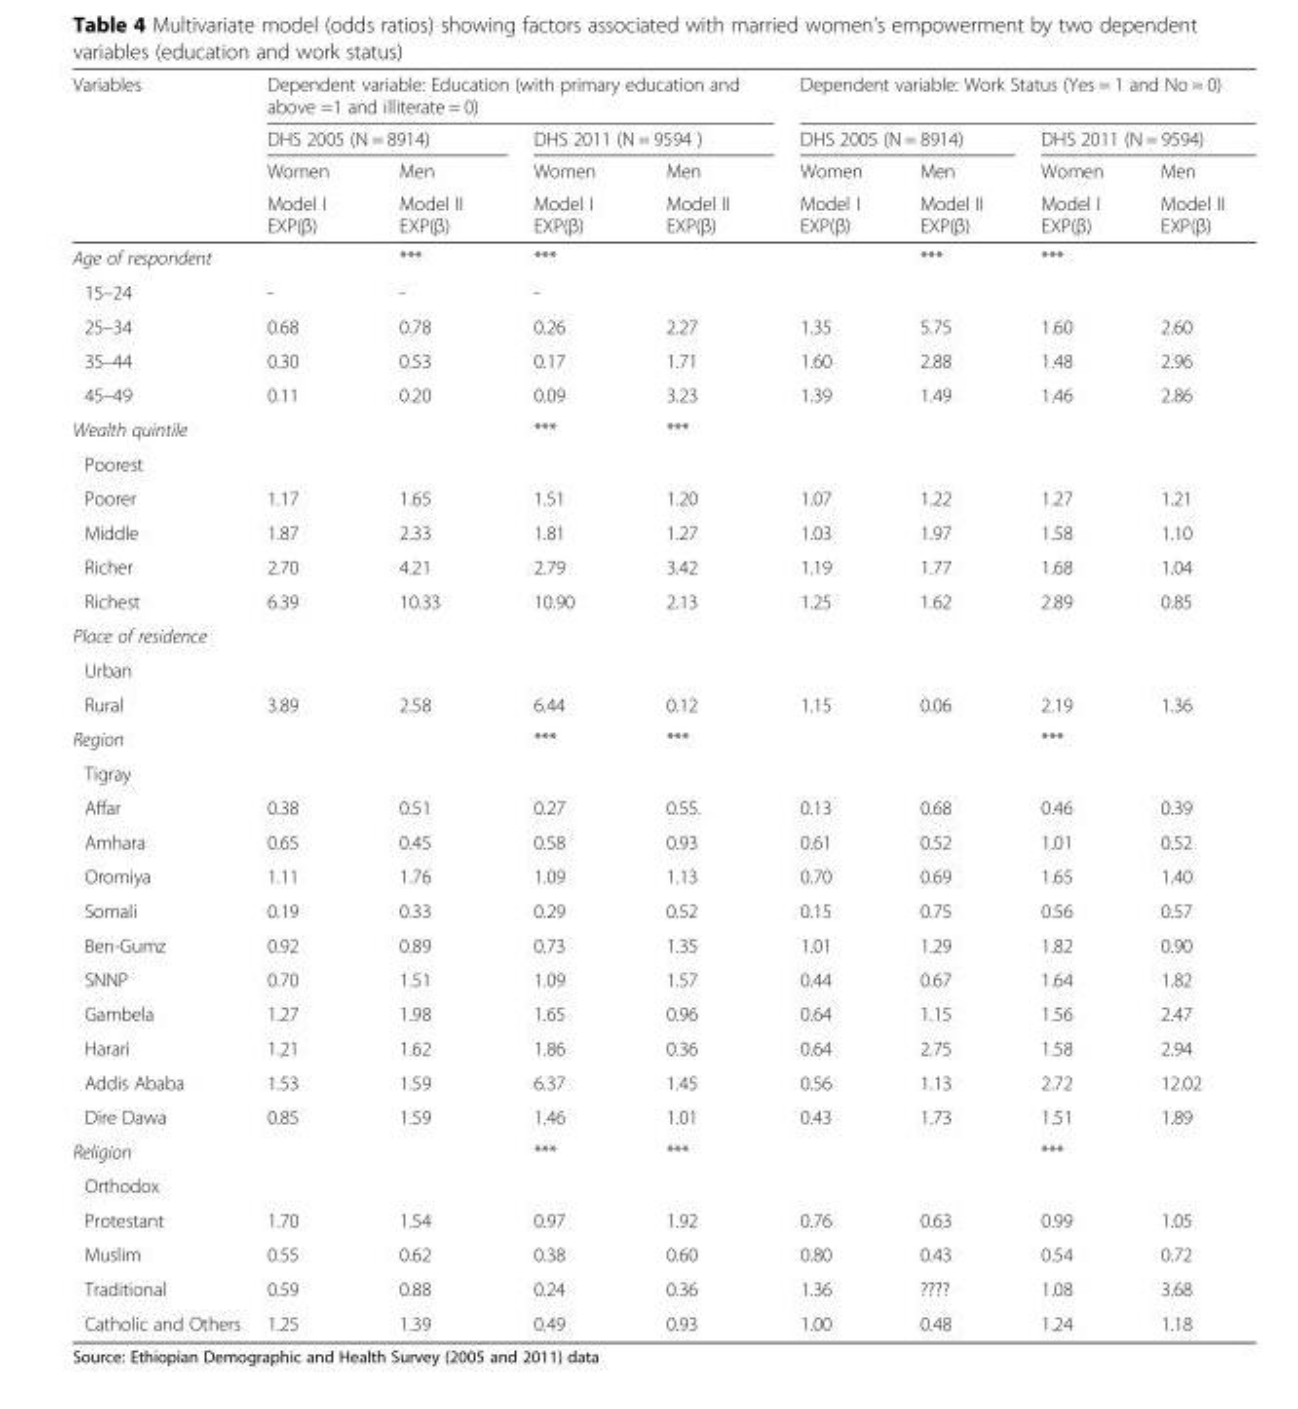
<table><thead><tr><td rowspan="4">Variables</td><td colspan="4">Dependent variable: Education (with primary education and above =1 and illiterate = 0)</td><td colspan="4">Dependent variable: Work Status (Yes = 1 and No = 0)</td></tr><tr><td colspan="2">DHS 2005 (N = 8914)</td><td colspan="2">DHS 2011 (N = 9594 )</td><td colspan="2">DHS 2005 (N = 8914)</td><td colspan="2">DHS 2011 (N = 9594)</td></tr><tr><td rowspan="2">Women Model I EXP(β)</td><td rowspan="2">Men Model II EXP(β)</td><td rowspan="2">Women Model I EXP(β)</td><td rowspan="2">Men Model II EXP(β)</td><td rowspan="2">Women Model I EXP(β)</td><td rowspan="2">Men Model II EXP(β)</td><td rowspan="2">Women Model I EXP(β)</td><td rowspan="2">Men Model II EXP(β)</td></tr><tr></tr></thead><tbody><tr><td>Age of respondent</td><td></td><td>***</td><td>***</td><td></td><td></td><td>***</td><td>***</td><td></td></tr><tr><td>15–24</td><td>-</td><td>-</td><td>-</td><td></td><td></td><td></td><td></td><td></td></tr><tr><td>25–34</td><td>0.68</td><td>0.78</td><td>0.26</td><td>2.27</td><td>1.35</td><td>5.75</td><td>1.60</td><td>2.60</td></tr><tr><td>35–44</td><td>0.30</td><td>0.53</td><td>0.17</td><td>1.71</td><td>1.60</td><td>2.88</td><td>1.48</td><td>2.96</td></tr><tr><td>45–49</td><td>0.11</td><td>0.20</td><td>0.09</td><td>3.23</td><td>1.39</td><td>1.49</td><td>1.46</td><td>2.86</td></tr><tr><td>Wealth quintile</td><td></td><td></td><td>***</td><td>***</td><td></td><td></td><td></td><td></td></tr><tr><td colspan="9">Poorest</td></tr><tr><td>Poorer</td><td>1.17</td><td>1.65</td><td>1.51</td><td>1.20</td><td>1.07</td><td>1.22</td><td>1.27</td><td>1.21</td></tr><tr><td>Middle</td><td>1.87</td><td>2.33</td><td>1.81</td><td>1.27</td><td>1.03</td><td>1.97</td><td>1.58</td><td>1.10</td></tr><tr><td>Richer</td><td>2.70</td><td>4.21</td><td>2.79</td><td>3.42</td><td>1.19</td><td>1.77</td><td>1.68</td><td>1.04</td></tr><tr><td>Richest</td><td>6.39</td><td>10.33</td><td>10.90</td><td>2.13</td><td>1.25</td><td>1.62</td><td>2.89</td><td>0.85</td></tr><tr><td colspan="9">Place of residence</td></tr><tr><td colspan="9">Urban</td></tr><tr><td>Rural</td><td>3.89</td><td>2.58</td><td>6.44</td><td>0.12</td><td>1.15</td><td>0.06</td><td>2.19</td><td>1.36</td></tr><tr><td>Region</td><td></td><td></td><td>***</td><td>***</td><td></td><td></td><td>***</td><td></td></tr><tr><td colspan="9">Tigray</td></tr><tr><td>Affar</td><td>0.38</td><td>0.51</td><td>0.27</td><td>0.55.</td><td>0.13</td><td>0.68</td><td>0.46</td><td>0.39</td></tr><tr><td>Amhara</td><td>0.65</td><td>0.45</td><td>0.58</td><td>0.93</td><td>0.61</td><td>0.52</td><td>1.01</td><td>0.52</td></tr><tr><td>Oromiya</td><td>1.11</td><td>1.76</td><td>1.09</td><td>1.13</td><td>0.70</td><td>0.69</td><td>1.65</td><td>1.40</td></tr><tr><td>Somali</td><td>0.19</td><td>0.33</td><td>0.29</td><td>0.52</td><td>0.15</td><td>0.75</td><td>0.56</td><td>0.57</td></tr><tr><td>Ben-Gumz</td><td>0.92</td><td>0.89</td><td>0.73</td><td>1.35</td><td>1.01</td><td>1.29</td><td>1.82</td><td>0.90</td></tr><tr><td>SNNP</td><td>0.70</td><td>1.51</td><td>1.09</td><td>1.57</td><td>0.44</td><td>0.67</td><td>1.64</td><td>1.82</td></tr><tr><td>Gambela</td><td>1.27</td><td>1.98</td><td>1.65</td><td>0.96</td><td>0.64</td><td>1.15</td><td>1.56</td><td>2.47</td></tr><tr><td>Harari</td><td>1.21</td><td>1.62</td><td>1.86</td><td>0.36</td><td>0.64</td><td>2.75</td><td>1.58</td><td>2.94</td></tr><tr><td>Addis Ababa</td><td>1.53</td><td>1.59</td><td>6.37</td><td>1.45</td><td>0.56</td><td>1.13</td><td>2.72</td><td>12.02</td></tr><tr><td>Dire Dawa</td><td>0.85</td><td>1.59</td><td>1.46</td><td>1.01</td><td>0.43</td><td>1.73</td><td>1.51</td><td>1.89</td></tr><tr><td>Religion</td><td></td><td></td><td>***</td><td>***</td><td></td><td></td><td>***</td><td></td></tr><tr><td colspan="9">Orthodox</td></tr><tr><td>Protestant</td><td>1.70</td><td>1.54</td><td>0.97</td><td>1.92</td><td>0.76</td><td>0.63</td><td>0.99</td><td>1.05</td></tr><tr><td>Muslim</td><td>0.55</td><td>0.62</td><td>0.38</td><td>0.60</td><td>0.80</td><td>0.43</td><td>0.54</td><td>0.72</td></tr><tr><td>Traditional</td><td>0.59</td><td>0.88</td><td>0.24</td><td>0.36</td><td>1.36</td><td>????</td><td>1.08</td><td>3.68</td></tr><tr><td>Catholic and Others</td><td>1.25</td><td>1.39</td><td>0.49</td><td>0.93</td><td>1.00</td><td>0.48</td><td>1.24</td><td>1.18</td></tr></tbody></table>